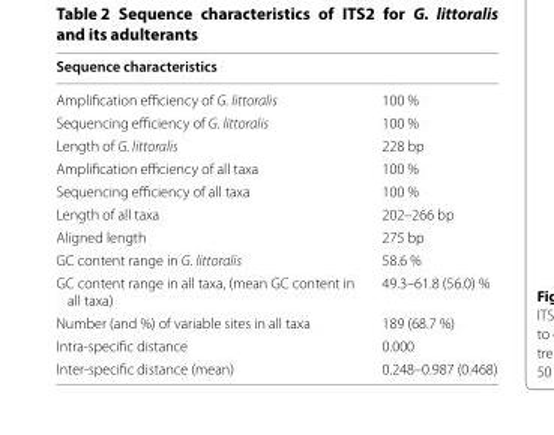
<table><thead><tr><td>Sequence characteristics</td><td></td></tr></thead><tbody><tr><td>Amplification efficiency of G. littoralis</td><td>100 %</td></tr><tr><td>Sequencing efficiency of G. littoralis</td><td>100 %</td></tr><tr><td>Length of G. littoralis</td><td>228 bp</td></tr><tr><td>Amplification efficiency of all taxa</td><td>100 %</td></tr><tr><td>Sequencing efficiency of all taxa</td><td>100 %</td></tr><tr><td>Length of all taxa</td><td>202–266 bp</td></tr><tr><td>Aligned length</td><td>275 bp</td></tr><tr><td>GC content range in G. littoralis</td><td>58.6 %</td></tr><tr><td>GC content range in all taxa, (mean GC content in all taxa)</td><td>49.3–61.8 (56.0) %</td></tr><tr><td>Number (and %) of variable sites in all taxa</td><td>189 (68.7 %)</td></tr><tr><td>Intra-specific distance</td><td>0.000</td></tr><tr><td>Inter-specific distance (mean)</td><td>0.248–0.987 (0.468)</td></tr></tbody></table>